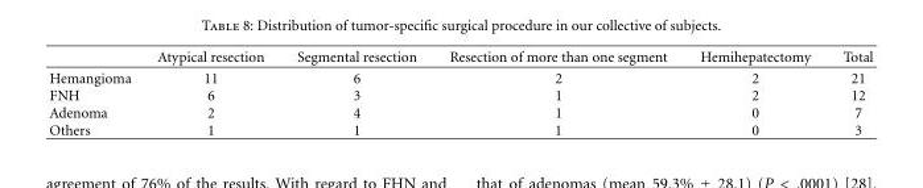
<table><thead><tr><td></td><td>Atypical resection</td><td>Segmental resection</td><td>Resection of more than one segment</td><td>Hemihepatectomy</td><td>Total</td></tr></thead><tbody><tr><td>Hemangioma</td><td>11</td><td>6</td><td>2</td><td>2</td><td>21</td></tr><tr><td>FNH</td><td>6</td><td>3</td><td>1</td><td>2</td><td>12</td></tr><tr><td>Adenoma</td><td>2</td><td>4</td><td>1</td><td>0</td><td>7</td></tr><tr><td>Others</td><td>1</td><td>1</td><td>1</td><td>0</td><td>3</td></tr></tbody></table>